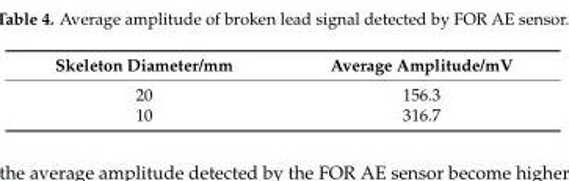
<table><thead><tr><td>Skeleton Diameter/mm</td><td>Average Amplitude/mV</td></tr></thead><tbody><tr><td>20</td><td>156.3</td></tr><tr><td>10</td><td>316.7</td></tr></tbody></table>